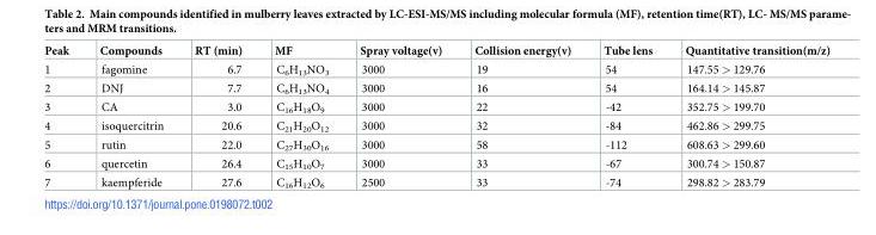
<table><thead><tr><td>Peak</td><td>Compounds</td><td>RT (min)</td><td>MF</td><td>Spray voltage(v)</td><td>Collision energy(v)</td><td>Tube lens</td><td>Quantitative transition(m/z)</td></tr></thead><tbody><tr><td>1</td><td>fagomine</td><td>6.7</td><td>C<sub>6</sub>H<sub>13</sub>NO<sub>3</sub></td><td>3000</td><td>19</td><td>54</td><td>147.55 &gt; 129.76</td></tr><tr><td>2</td><td>DNJ</td><td>7.7</td><td>C<sub>6</sub>H<sub>13</sub>NO<sub>4</sub></td><td>3000</td><td>16</td><td>54</td><td>164.14 &gt; 145.87</td></tr><tr><td>3</td><td>CA</td><td>3.0</td><td>C<sub>16</sub>H<sub>18</sub>O<sub>9</sub></td><td>3000</td><td>22</td><td>-42</td><td>352.75 &gt; 199.70</td></tr><tr><td>4</td><td>isoquercitrin</td><td>20.6</td><td>C<sub>21</sub>H<sub>20</sub>O<sub>12</sub></td><td>3000</td><td>32</td><td>-84</td><td>462.86 &gt; 299.75</td></tr><tr><td>5</td><td>rutin</td><td>22.0</td><td>C<sub>27</sub>H<sub>30</sub>O<sub>16</sub></td><td>3000</td><td>58</td><td>-112</td><td>608.63 &gt; 299.60</td></tr><tr><td>6</td><td>quercetin</td><td>26.4</td><td>C<sub>15</sub>H<sub>10</sub>O<sub>7</sub></td><td>3000</td><td>33</td><td>-67</td><td>300.74 &gt; 150.87</td></tr><tr><td>7</td><td>kaempferide</td><td>27.6</td><td>C<sub>16</sub>H<sub>12</sub>O<sub>6</sub></td><td>2500</td><td>33</td><td>-74</td><td>298.82 &gt; 283.79</td></tr></tbody></table>